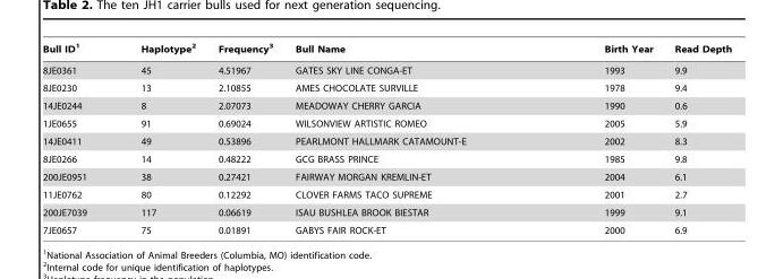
<table><thead><tr><td>Bull ID<sup>1</sup></td><td>Haplotype<sup>2</sup></td><td>Frequency<sup>3</sup></td><td>Bull Name</td><td>Birth Year</td><td>Read Depth</td></tr></thead><tbody><tr><td>8JE0361</td><td>45</td><td>4.51967</td><td>GATES SKY LINE CONGA-ET</td><td>1993</td><td>9.9</td></tr><tr><td>8JE0230</td><td>13</td><td>2.10855</td><td>AMES CHOCOLATE SURVILLE</td><td>1978</td><td>9.4</td></tr><tr><td>14JE0244</td><td>8</td><td>2.07073</td><td>MEADOWAY CHERRY GARCIA</td><td>1990</td><td>0.6</td></tr><tr><td>1JE0655</td><td>91</td><td>0.69024</td><td>WILSONVIEW ARTISTIC ROMEO</td><td>2005</td><td>5.9</td></tr><tr><td>14JE0411</td><td>49</td><td>0.53896</td><td>PEARLMONT HALLMARK CATAMOUNT-E</td><td>2002</td><td>8.3</td></tr><tr><td>8JE0266</td><td>14</td><td>0.48222</td><td>GCG BRASS PRINCE</td><td>1985</td><td>9.8</td></tr><tr><td>200JE0951</td><td>38</td><td>0.27421</td><td>FAIRWAY MORGAN KREMLIN-ET</td><td>2004</td><td>6.1</td></tr><tr><td>11JE0762</td><td>80</td><td>0.12292</td><td>CLOVER FARMS TACO SUPREME</td><td>2001</td><td>2.7</td></tr><tr><td>200JE7039</td><td>117</td><td>0.06619</td><td>ISAU BUSHLEA BROOK BIESTAR</td><td>1999</td><td>9.1</td></tr><tr><td>7JE0657</td><td>75</td><td>0.01891</td><td>GABYS FAIR ROCK-ET</td><td>2000</td><td>6.9</td></tr></tbody></table>